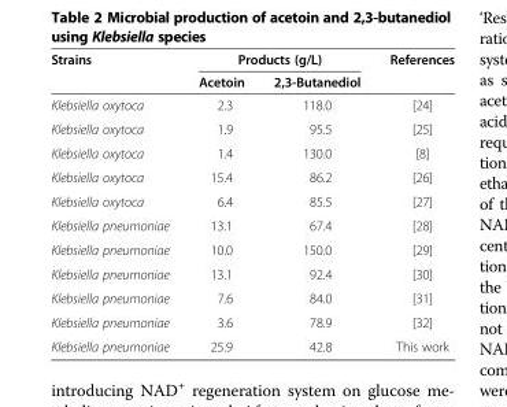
<table><thead><tr><td rowspan="2">Strains</td><td colspan="2">Products (g/L)</td><td rowspan="2">References</td></tr><tr><td>Acetoin</td><td>2,3-Butanediol</td></tr></thead><tbody><tr><td>Klebsiella oxytoca</td><td>2.3</td><td>118.0</td><td>[24]</td></tr><tr><td>Klebsiella oxytoca</td><td>1.9</td><td>95.5</td><td>[25]</td></tr><tr><td>Klebsiella oxytoca</td><td>1.4</td><td>130.0</td><td>[8]</td></tr><tr><td>Klebsiella oxytoca</td><td>15.4</td><td>86.2</td><td>[26]</td></tr><tr><td>Klebsiella oxytoca</td><td>6.4</td><td>85.5</td><td>[27]</td></tr><tr><td>Klebsiella pneumoniae</td><td>13.1</td><td>67.4</td><td>[28]</td></tr><tr><td>Klebsiella pneumoniae</td><td>10.0</td><td>150.0</td><td>[29]</td></tr><tr><td>Klebsiella pneumoniae</td><td>13.1</td><td>92.4</td><td>[30]</td></tr><tr><td>Klebsiella pneumoniae</td><td>7.6</td><td>84.0</td><td>[31]</td></tr><tr><td>Klebsiella pneumoniae</td><td>3.6</td><td>78.9</td><td>[32]</td></tr><tr><td>Klebsiella pneumoniae</td><td>25.9</td><td>42.8</td><td>This work</td></tr></tbody></table>